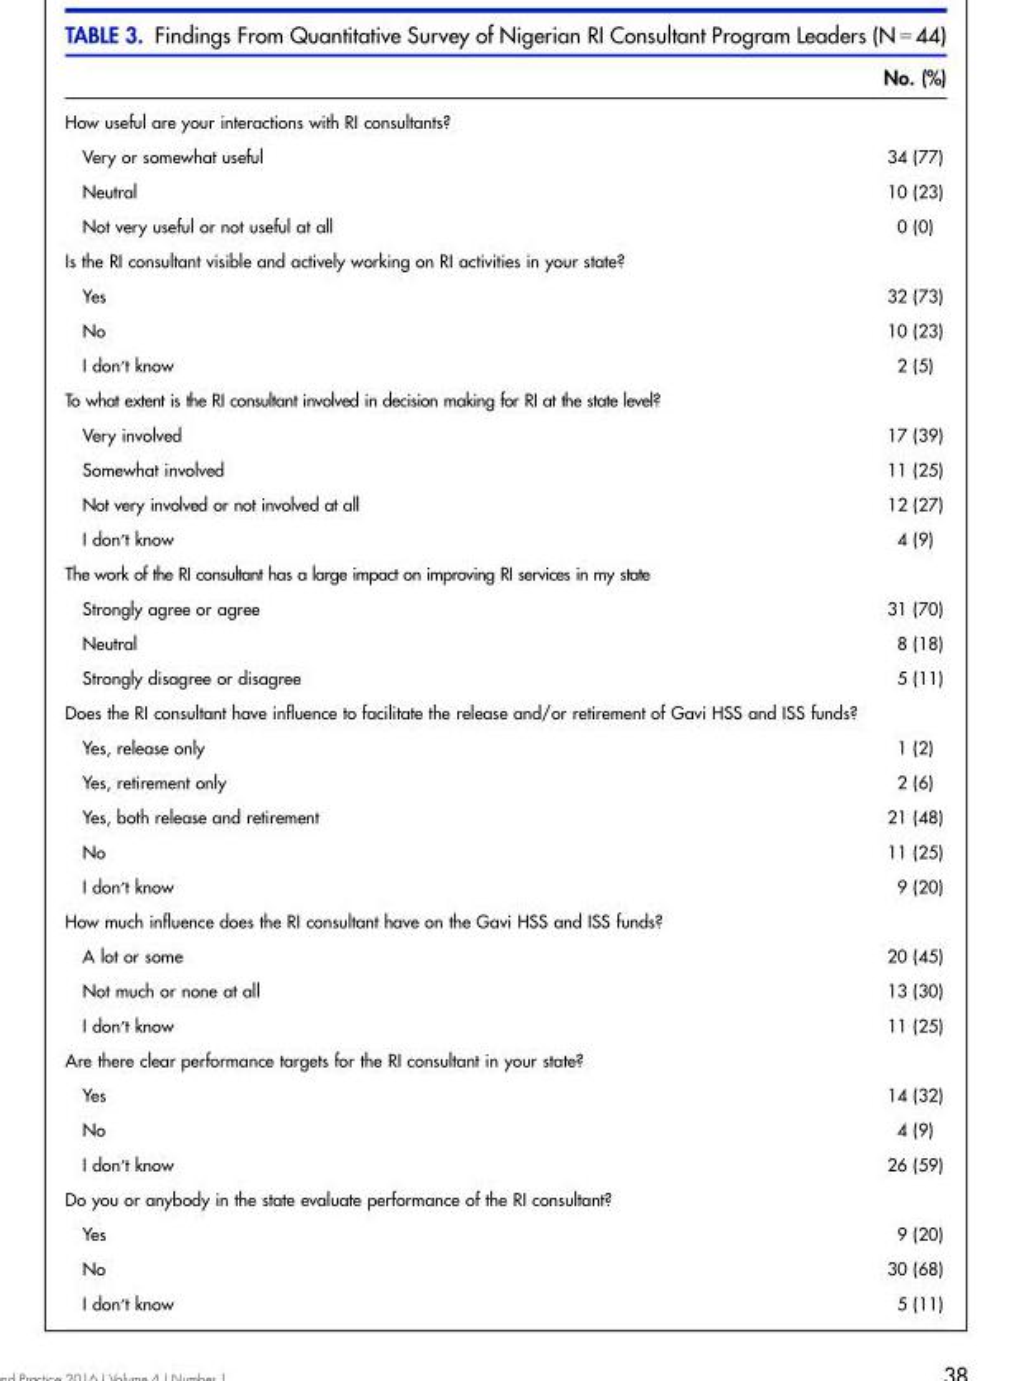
<table><thead><tr><td></td><td>No. (%)</td></tr></thead><tbody><tr><td colspan="2">How useful are your interactions with RI consultants?</td></tr><tr><td>Very or somewhat useful</td><td>34 (77)</td></tr><tr><td>Neutral</td><td>10 (23)</td></tr><tr><td>Not very useful or not useful at all</td><td>0 (0)</td></tr><tr><td colspan="2">Is the RI consultant visible and actively working on RI activities in your state?</td></tr><tr><td>Yes</td><td>32 (73)</td></tr><tr><td>No</td><td>10 (23)</td></tr><tr><td>I don’t know</td><td>2 (5)</td></tr><tr><td colspan="2">To what extent is the RI consultant involved in decision making for RI at the state level?</td></tr><tr><td>Very involved</td><td>17 (39)</td></tr><tr><td>Somewhat involved</td><td>11 (25)</td></tr><tr><td>Not very involved or not involved at all</td><td>12 (27)</td></tr><tr><td>I don’t know</td><td>4 (9)</td></tr><tr><td colspan="2">The work of the RI consultant has a large impact on improving RI services in my state</td></tr><tr><td>Strongly agree or agree</td><td>31 (70)</td></tr><tr><td>Neutral</td><td>8 (18)</td></tr><tr><td>Strongly disagree or disagree</td><td>5 (11)</td></tr><tr><td colspan="2">Does the RI consultant have influence to facilitate the release and/or retirement of Gavi HSS and ISS funds?</td></tr><tr><td>Yes, release only</td><td>1 (2)</td></tr><tr><td>Yes, retirement only</td><td>2 (6)</td></tr><tr><td>Yes, both release and retirement</td><td>21 (48)</td></tr><tr><td>No</td><td>11 (25)</td></tr><tr><td>I don’t know</td><td>9 (20)</td></tr><tr><td colspan="2">How much influence does the RI consultant have on the Gavi HSS and ISS funds?</td></tr><tr><td>A lot or some</td><td>20 (45)</td></tr><tr><td>Not much or none at all</td><td>13 (30)</td></tr><tr><td>I don’t know</td><td>11 (25)</td></tr><tr><td colspan="2">Are there clear performance targets for the RI consultant in your state?</td></tr><tr><td>Yes</td><td>14 (32)</td></tr><tr><td>No</td><td>4 (9)</td></tr><tr><td>I don’t know</td><td>26 (59)</td></tr><tr><td colspan="2">Do you or anybody in the state evaluate performance of the RI consultant?</td></tr><tr><td>Yes</td><td>9 (20)</td></tr><tr><td>No</td><td>30 (68)</td></tr><tr><td>I don’t know</td><td>5 (11)</td></tr></tbody></table>